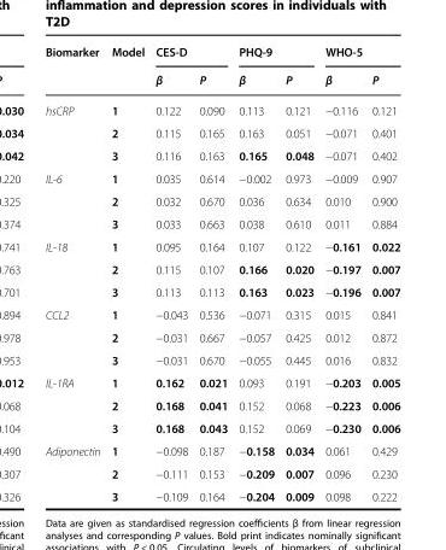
<table><thead><tr><td rowspan="2">Biomarker</td><td rowspan="2">Model</td><td colspan="2">CES-D</td><td colspan="2">PHQ-9</td><td colspan="2">WHO-5</td></tr><tr><td>β</td><td>P</td><td>β</td><td>P</td><td>β</td><td>P</td></tr></thead><tbody><tr><td rowspan="3">hsCRP</td><td>1</td><td>0.122</td><td>0.090</td><td>0.113</td><td>0.121</td><td>−0.116</td><td>0.121</td></tr><tr><td>2</td><td>0.115</td><td>0.165</td><td>0.163</td><td>0.051</td><td>−0.071</td><td>0.401</td></tr><tr><td>3</td><td>0.116</td><td>0.163</td><td>0.165</td><td>0.048</td><td>−0.071</td><td>0.402</td></tr><tr><td rowspan="3">IL-6</td><td>1</td><td>0.035</td><td>0.614</td><td>−0.002</td><td>0.973</td><td>−0.009</td><td>0.907</td></tr><tr><td>2</td><td>0.032</td><td>0.670</td><td>0.036</td><td>0.634</td><td>0.010</td><td>0.900</td></tr><tr><td>3</td><td>0.033</td><td>0.663</td><td>0.038</td><td>0.610</td><td>0.011</td><td>0.884</td></tr><tr><td rowspan="3">IL-18</td><td>1</td><td>0.095</td><td>0.164</td><td>0.107</td><td>0.122</td><td>−0.161</td><td>0.022</td></tr><tr><td>2</td><td>0.115</td><td>0.107</td><td>0.166</td><td>0.020</td><td>−0.197</td><td>0.007</td></tr><tr><td>3</td><td>0.113</td><td>0.113</td><td>0.163</td><td>0.023</td><td>−0.196</td><td>0.007</td></tr><tr><td rowspan="3">CCL2</td><td>1</td><td>−0.043</td><td>0.536</td><td>−0.071</td><td>0.315</td><td>0.015</td><td>0.841</td></tr><tr><td>2</td><td>−0.031</td><td>0.667</td><td>−0.057</td><td>0.425</td><td>0.012</td><td>0.872</td></tr><tr><td>3</td><td>−0.031</td><td>0.670</td><td>−0.055</td><td>0.445</td><td>0.016</td><td>0.832</td></tr><tr><td rowspan="3">IL-1RA</td><td>1</td><td>0.162</td><td>0.021</td><td>0.093</td><td>0.191</td><td>−0.203</td><td>0.005</td></tr><tr><td>2</td><td>0.168</td><td>0.041</td><td>0.152</td><td>0.068</td><td>−0.223</td><td>0.006</td></tr><tr><td>3</td><td>0.168</td><td>0.043</td><td>0.152</td><td>0.069</td><td>−0.230</td><td>0.006</td></tr><tr><td rowspan="3">Adiponectin</td><td>1</td><td>−0.098</td><td>0.187</td><td>−0.158</td><td>0.034</td><td>0.061</td><td>0.429</td></tr><tr><td>2</td><td>−0.111</td><td>0.153</td><td>−0.209</td><td>0.007</td><td>0.096</td><td>0.230</td></tr><tr><td>3</td><td>−0.109</td><td>0.164</td><td>−0.204</td><td>0.009</td><td>0.098</td><td>0.222</td></tr></tbody></table>